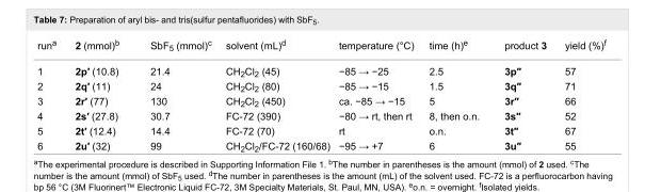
<table><tbody><tr><td>run<sup>a</sup></td><td>2 (mmol)<sup>b</sup></td><td>SbF<sub>5</sub> (mmol)<sup>c</sup></td><td>solvent (mL)<sup>d</sup></td><td>temperature (°C)</td><td>time (h)<sup>e</sup></td><td>product 3</td><td>yield (%)<sup>f</sup></td></tr><tr><td>1</td><td>2p′ (10.8)</td><td>21.4</td><td>CH<sub>2</sub>Cl<sub>2</sub> (45)</td><td>−85 → −25</td><td>2.5</td><td>3p″</td><td>57</td></tr><tr><td>2</td><td>2q′ (11)</td><td>24</td><td>CH<sub>2</sub>Cl<sub>2</sub> (80)</td><td>−85 → −15</td><td>1.5</td><td>3q″</td><td>71</td></tr><tr><td>3</td><td>2r′ (77)</td><td>130</td><td>CH<sub>2</sub>Cl<sub>2</sub> (450)</td><td>ca. −85 → −15</td><td>5</td><td>3r″</td><td>66</td></tr><tr><td>4</td><td>2s′ (27.8)</td><td>30.7</td><td>FC-72 (390)</td><td>−80 → rt, then rt</td><td>8, then o.n.</td><td>3s″</td><td>52</td></tr><tr><td>5</td><td>2t′ (12.4)</td><td>14.4</td><td>FC-72 (70)</td><td>rt</td><td>o.n.</td><td>3t″</td><td>67</td></tr><tr><td>6</td><td>2u′ (32)</td><td>99</td><td>CH<sub>2</sub>Cl<sub>2</sub>/FC-72 (160/68)</td><td>−95 → +7</td><td>6</td><td>3u″</td><td>55</td></tr></tbody></table>